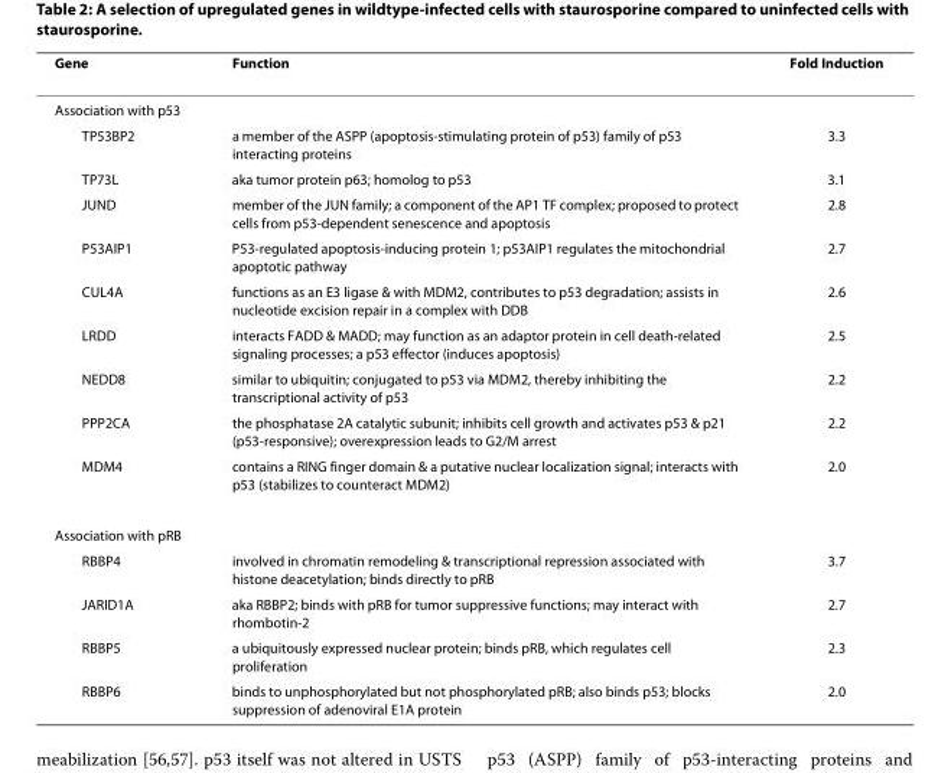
<table><thead><tr><td>Gene</td><td>Function</td><td>Fold Induction</td></tr></thead><tbody><tr><td colspan="3">Association with p53</td></tr><tr><td>TP53BP2</td><td>a member of the ASPP (apoptosis-stimulating protein of p53) family of p53 interacting proteins</td><td>3.3</td></tr><tr><td>TP73L</td><td>aka tumor protein p63; homolog to p53</td><td>3.1</td></tr><tr><td>JUND</td><td>member of the JUN family; a component of the AP1 TF complex; proposed to protect cells from p53-dependent senescence and apoptosis</td><td>2.8</td></tr><tr><td>P53AIP1</td><td>P53-regulated apoptosis-inducing protein 1; p53AIP1 regulates the mitochondrial apoptotic pathway</td><td>2.7</td></tr><tr><td>CUL4A</td><td>functions as an E3 ligase &amp; with MDM2, contributes to p53 degradation; assists in nucleotide excision repair in a complex with DDB</td><td>2.6</td></tr><tr><td>LRDD</td><td>interacts FADD &amp; MADD; may function as an adaptor protein in cell death-related signaling processes; a p53 effector (induces apoptosis)</td><td>2.5</td></tr><tr><td>NEDD8</td><td>similar to ubiquitin; conjugated to p53 via MDM2, thereby inhibiting the transcriptional activity of p53</td><td>2.2</td></tr><tr><td>PPP2CA</td><td>the phosphatase 2A catalytic subunit; inhibits cell growth and activates p53 &amp; p21 (p53-responsive); overexpression leads to G2/M arrest</td><td>2.2</td></tr><tr><td>MDM4</td><td>contains a RING finger domain &amp; a putative nuclear localization signal; interacts with p53 (stabilizes to counteract MDM2)</td><td>2.0</td></tr><tr><td colspan="3">Association with pRB</td></tr><tr><td>RBBP4</td><td>involved in chromatin remodeling &amp; transcriptional repression associated with histone deacetylation; binds directly to pRB</td><td>3.7</td></tr><tr><td>JARID1A</td><td>aka RBBP2; binds with pRB for tumor suppressive functions; may interact with rhombotin-2</td><td>2.7</td></tr><tr><td>RBBP5</td><td>a ubiquitously expressed nuclear protein; binds pRB, which regulates cell proliferation</td><td>2.3</td></tr><tr><td>RBBP6</td><td>binds to unphosphorylated but not phosphorylated pRB; also binds p53; blocks suppression of adenoviral E1A protein</td><td>2.0</td></tr></tbody></table>